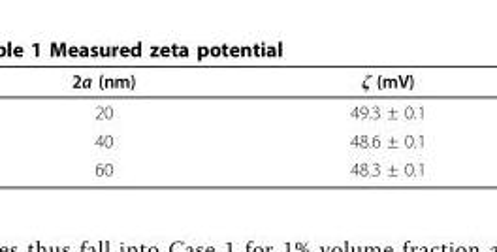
<table><thead><tr><td>2a (nm)</td><td>ζ (mV)</td></tr></thead><tbody><tr><td>20</td><td>49.3 ± 0.1</td></tr><tr><td>40</td><td>48.6 ± 0.1</td></tr><tr><td>60</td><td>48.3 ± 0.1</td></tr></tbody></table>